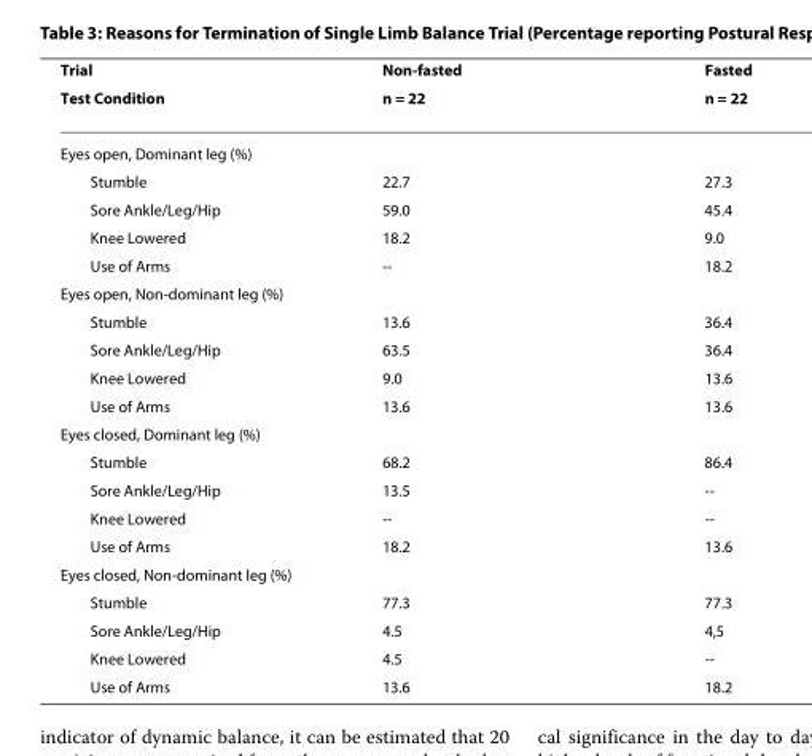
<table><thead><tr><td rowspan="2">Trial Test Condition</td><td rowspan="2">Non-fasted n = 22</td><td rowspan="2">Fasted n = 22</td></tr><tr></tr></thead><tbody><tr><td colspan="3">Eyes open, Dominant leg (%)</td></tr><tr><td>Stumble</td><td>22.7</td><td>27.3</td></tr><tr><td>Sore Ankle/Leg/Hip</td><td>59.0</td><td>45.4</td></tr><tr><td>Knee Lowered</td><td>18.2</td><td>9.0</td></tr><tr><td>Use of Arms</td><td>--</td><td>18.2</td></tr><tr><td colspan="3">Eyes open, Non-dominant leg (%)</td></tr><tr><td>Stumble</td><td>13.6</td><td>36.4</td></tr><tr><td>Sore Ankle/Leg/Hip</td><td>63.5</td><td>36.4</td></tr><tr><td>Knee Lowered</td><td>9.0</td><td>13.6</td></tr><tr><td>Use of Arms</td><td>13.6</td><td>13.6</td></tr><tr><td colspan="3">Eyes closed, Dominant leg (%)</td></tr><tr><td>Stumble</td><td>68.2</td><td>86.4</td></tr><tr><td>Sore Ankle/Leg/Hip</td><td>13.5</td><td>--</td></tr><tr><td>Knee Lowered</td><td>--</td><td>--</td></tr><tr><td>Use of Arms</td><td>18.2</td><td>13.6</td></tr><tr><td colspan="3">Eyes closed, Non-dominant leg (%)</td></tr><tr><td>Stumble</td><td>77.3</td><td>77.3</td></tr><tr><td>Sore Ankle/Leg/Hip</td><td>4.5</td><td>4,5</td></tr><tr><td>Knee Lowered</td><td>4.5</td><td>--</td></tr><tr><td>Use of Arms</td><td>13.6</td><td>18.2</td></tr></tbody></table>